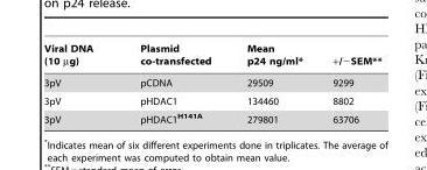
<table><thead><tr><td>Viral DNA (10 µg)</td><td>Plasmid co-transfected</td><td>Mean p24 ng/ml*</td><td>+/−SEM**</td></tr></thead><tbody><tr><td>3pV</td><td>pCDNA</td><td>29509</td><td>9299</td></tr><tr><td>3pV</td><td>pHDAC1</td><td>134460</td><td>8802</td></tr><tr><td>3pV</td><td>pHDAC1<sup>H141A</sup></td><td>279801</td><td>63706</td></tr></tbody></table>